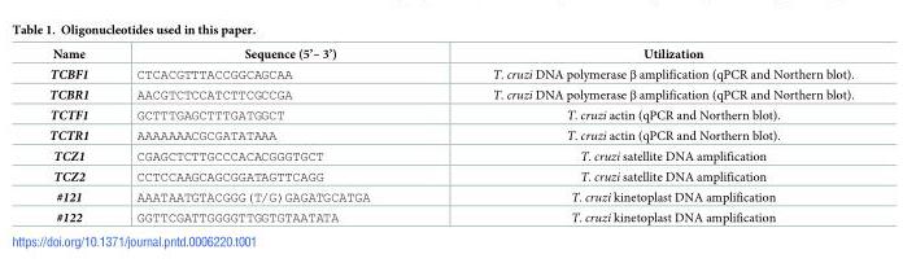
<table><thead><tr><td>Name</td><td>Sequence (5’– 3’)</td><td>Utilization</td></tr></thead><tbody><tr><td>TCBF1</td><td>CTCACGTTTACCGGCAGCAA</td><td>T. cruzi DNA polymerase β amplification (qPCR and Northern blot).</td></tr><tr><td>TCBR1</td><td>AACGTCTCCATCTTCGCCGA</td><td>T. cruzi DNA polymerase β amplification (qPCR and Northern blot).</td></tr><tr><td>TCTF1</td><td>GCTTTGAGCTTTGATGGCT</td><td>T. cruzi actin (qPCR and Northern blot).</td></tr><tr><td>TCTR1</td><td>AAAAAAACGCGATATAAA</td><td>T. cruzi actin (qPCR and Northern blot).</td></tr><tr><td>TCZ1</td><td>CGAGCTCTTGCCCACACGGGTGCT</td><td>T. cruzi satellite DNA amplification</td></tr><tr><td>TCZ2</td><td>CCTCCAAGCAGCGGATAGTTCAGG</td><td>T. cruzi satellite DNA amplification</td></tr><tr><td>#121</td><td>AAATAATGTACGGG(T/G)GAGATGCATGA</td><td>T. cruzi kinetoplast DNA amplification</td></tr><tr><td>#122</td><td>GGTTCGATTGGGGTTGGTGTAATATA</td><td>T. cruzi kinetoplast DNA amplification</td></tr></tbody></table>